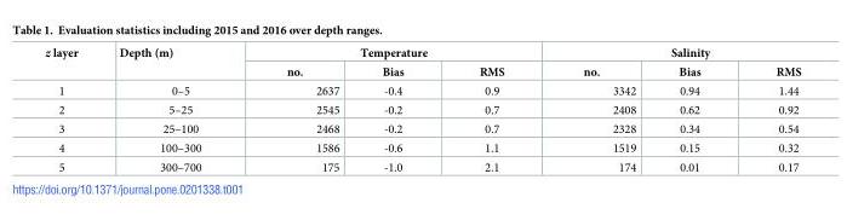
<table><thead><tr><td rowspan="2">z layer</td><td rowspan="2">Depth (m)</td><td colspan="3">Temperature</td><td colspan="3">Salinity</td></tr><tr><td>no.</td><td>Bias</td><td>RMS</td><td>no.</td><td>Bias</td><td>RMS</td></tr></thead><tbody><tr><td>1</td><td>0–5</td><td>2637</td><td>-0.4</td><td>0.9</td><td>3342</td><td>0.94</td><td>1.44</td></tr><tr><td>2</td><td>5–25</td><td>2545</td><td>-0.2</td><td>0.7</td><td>2408</td><td>0.62</td><td>0.92</td></tr><tr><td>3</td><td>25–100</td><td>2468</td><td>-0.2</td><td>0.7</td><td>2328</td><td>0.34</td><td>0.54</td></tr><tr><td>4</td><td>100–300</td><td>1586</td><td>-0.6</td><td>1.1</td><td>1519</td><td>0.15</td><td>0.32</td></tr><tr><td>5</td><td>300–700</td><td>175</td><td>-1.0</td><td>2.1</td><td>174</td><td>0.01</td><td>0.17</td></tr></tbody></table>